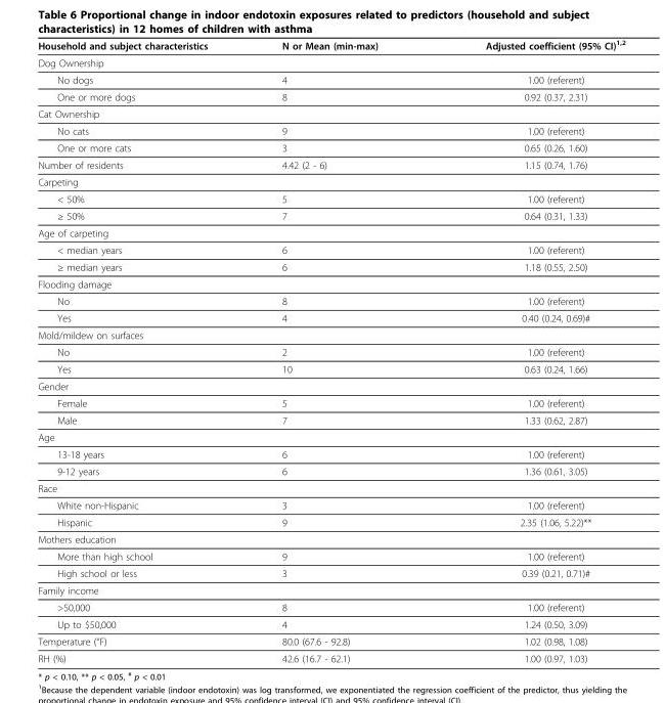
<table><thead><tr><td>Household and subject characteristics</td><td>N or Mean (min-max)</td><td>Adjusted coefficient (95% CI)<sup>1,2</sup></td></tr></thead><tbody><tr><td colspan="3">Dog Ownership</td></tr><tr><td>No dogs</td><td>4</td><td>1.00 (referent)</td></tr><tr><td>One or more dogs</td><td>8</td><td>0.92 (0.37, 2.31)</td></tr><tr><td colspan="3">Cat Ownership</td></tr><tr><td>No cats</td><td>9</td><td>1.00 (referent)</td></tr><tr><td>One or more cats</td><td>3</td><td>0.65 (0.26, 1.60)</td></tr><tr><td>Number of residents</td><td>4.42 (2 - 6)</td><td>1.15 (0.74, 1.76)</td></tr><tr><td colspan="3">Carpeting</td></tr><tr><td>&lt; 50%</td><td>5</td><td>1.00 (referent)</td></tr><tr><td>≥ 50%</td><td>7</td><td>0.64 (0.31, 1.33)</td></tr><tr><td colspan="3">Age of carpeting</td></tr><tr><td>&lt; median years</td><td>6</td><td>1.00 (referent)</td></tr><tr><td>≥ median years</td><td>6</td><td>1.18 (0.55, 2.50)</td></tr><tr><td colspan="3">Flooding damage</td></tr><tr><td>No</td><td>8</td><td>1.00 (referent)</td></tr><tr><td>Yes</td><td>4</td><td>0.40 (0.24, 0.69)#</td></tr><tr><td colspan="3">Mold/mildew on surfaces</td></tr><tr><td>No</td><td>2</td><td>1.00 (referent)</td></tr><tr><td>Yes</td><td>10</td><td>0.63 (0.24, 1.66)</td></tr><tr><td colspan="3">Gender</td></tr><tr><td>Female</td><td>5</td><td>1.00 (referent)</td></tr><tr><td>Male</td><td>7</td><td>1.33 (0.62, 2.87)</td></tr><tr><td colspan="3">Age</td></tr><tr><td>13-18 years</td><td>6</td><td>1.00 (referent)</td></tr><tr><td>9-12 years</td><td>6</td><td>1.36 (0.61, 3.05)</td></tr><tr><td colspan="3">Race</td></tr><tr><td>White non-Hispanic</td><td>3</td><td>1.00 (referent)</td></tr><tr><td>Hispanic</td><td>9</td><td>2.35 (1.06, 5.22)**</td></tr><tr><td colspan="3">Mothers education</td></tr><tr><td>More than high school</td><td>9</td><td>1.00 (referent)</td></tr><tr><td>High school or less</td><td>3</td><td>0.39 (0.21, 0.71)#</td></tr><tr><td colspan="3">Family income</td></tr><tr><td>&gt;50,000</td><td>8</td><td>1.00 (referent)</td></tr><tr><td>Up to $50,000</td><td>4</td><td>1.24 (0.50, 3.09)</td></tr><tr><td>Temperature (°F)</td><td>80.0 (67.6 - 92.8)</td><td>1.02 (0.98, 1.08)</td></tr><tr><td>RH (%)</td><td>42.6 (16.7 - 62.1)</td><td>1.00 (0.97, 1.03)</td></tr></tbody></table>